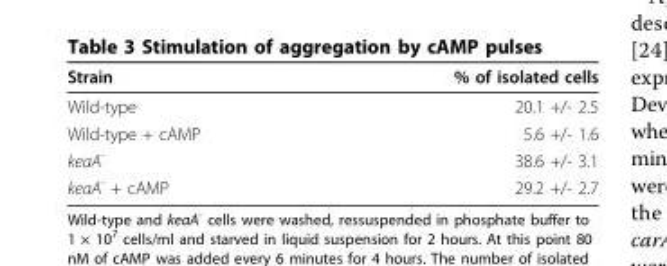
<table><thead><tr><td>Strain</td><td>% of isolated cells</td></tr></thead><tbody><tr><td>Wild-type</td><td>20.1 +/- 2.5</td></tr><tr><td>Wild-type + cAMP</td><td>5.6 +/- 1.6</td></tr><tr><td>keaA<sup>-</sup></td><td>38.6 +/- 3.1</td></tr><tr><td>keaA<sup>-</sup> + cAMP</td><td>29.2 +/- 2.7</td></tr></tbody></table>